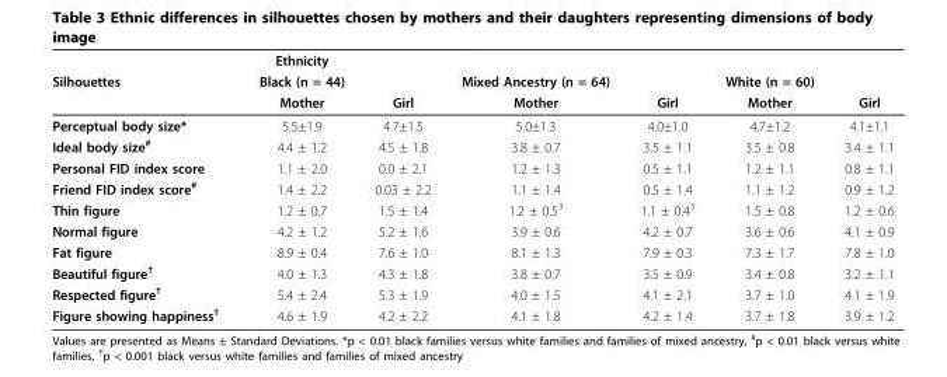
<table><thead><tr><td rowspan="3">Silhouettes</td><td rowspan="3">Ethnicity Black (n = 44) Mother</td><td rowspan="3">Girl</td><td rowspan="3">Mixed Ancestry (n = 64) Mother</td><td rowspan="3">Girl</td><td rowspan="3">White (n = 60) Mother</td><td rowspan="3">Girl</td></tr><tr></tr><tr></tr></thead><tbody><tr><td>Perceptual body size*</td><td>5.5±1.9</td><td>4.7±1.5</td><td>5.0±1.3</td><td>4.0±1.0</td><td>4.7±1.2</td><td>4.1±1.1</td></tr><tr><td>Ideal body size<sup>#</sup></td><td>4.4 ± 1.2</td><td>4.5 ± 1.8</td><td>3.8 ± 0.7</td><td>3.5 ± 1.1</td><td>3.5 ± 0.8</td><td>3.4 ± 1.1</td></tr><tr><td>Personal FID index score</td><td>1.1 ± 2.0</td><td>0.0 ± 2.1</td><td>1.2 ± 1.3</td><td>0.5 ± 1.1</td><td>1.2 ± 1.1</td><td>0.8 ± 1.1</td></tr><tr><td>Friend FID index score<sup>#</sup></td><td>1.4 ± 2.2</td><td>0.03 ± 2.2</td><td>1.1 ± 1.4</td><td>0.5 ± 1.4</td><td>1.1 ± 1.2</td><td>0.9 ± 1.2</td></tr><tr><td>Thin figure</td><td>1.2 ± 0.7</td><td>1.5 ± 1.4</td><td>1.2 ± 0.5<sup>3</sup></td><td>1.1 ± 0.4<sup>3</sup></td><td>1.5 ± 0.8</td><td>1.2 ± 0.6</td></tr><tr><td>Normal figure</td><td>4.2 ± 1.2</td><td>5.2 ± 1.6</td><td>3.9 ± 0.6</td><td>4.2 ± 0.7</td><td>3.6 ± 0.6</td><td>4.1 ± 0.9</td></tr><tr><td>Fat figure</td><td>8.9 ± 0.4</td><td>7.6 ± 1.0</td><td>8.1 ± 1.3</td><td>7.9 ± 0.3</td><td>7.3 ± 1.7</td><td>7.8 ± 1.0</td></tr><tr><td>Beautiful figure<sup>†</sup></td><td>4.0 ± 1.3</td><td>4.3 ± 1.8</td><td>3.8 ± 0.7</td><td>3.5 ± 0.9</td><td>3.4 ± 0.8</td><td>3.2 ± 1.1</td></tr><tr><td>Respected figure<sup>†</sup></td><td>5.4 ± 2.4</td><td>5.3 ± 1.9</td><td>4.0 ± 1.5</td><td>4.1 ± 2.1</td><td>3.7 ± 1.0</td><td>4.1 ± 1.9</td></tr><tr><td>Figure showing happiness<sup>†</sup></td><td>4.6 ± 1.9</td><td>4.2 ± 2.2</td><td>4.1 ± 1.8</td><td>4.2 ± 1.4</td><td>3.7 ± 1.8</td><td>3.9 ± 1.2</td></tr></tbody></table>